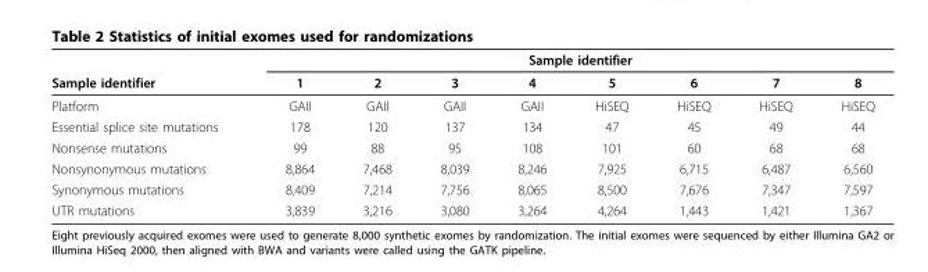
<table><thead><tr><td rowspan="2">Sample identifier</td><td colspan="8">Sample identifier</td></tr><tr><td>1</td><td>2</td><td>3</td><td>4</td><td>5</td><td>6</td><td>7</td><td>8</td></tr></thead><tbody><tr><td>Platform</td><td>GAII</td><td>GAII</td><td>GAII</td><td>GAII</td><td>HiSEQ</td><td>HiSEQ</td><td>HiSEQ</td><td>HiSEQ</td></tr><tr><td>Essential splice site mutations</td><td>178</td><td>120</td><td>137</td><td>134</td><td>47</td><td>45</td><td>49</td><td>44</td></tr><tr><td>Nonsense mutations</td><td>99</td><td>88</td><td>95</td><td>108</td><td>101</td><td>60</td><td>68</td><td>68</td></tr><tr><td>Nonsynonymous mutations</td><td>8,864</td><td>7,468</td><td>8,039</td><td>8,246</td><td>7,925</td><td>6,715</td><td>6,487</td><td>6,560</td></tr><tr><td>Synonymous mutations</td><td>8,409</td><td>7,214</td><td>7,756</td><td>8,065</td><td>8,500</td><td>7,676</td><td>7,347</td><td>7,597</td></tr><tr><td>UTR mutations</td><td>3,839</td><td>3,216</td><td>3,080</td><td>3,264</td><td>4,264</td><td>1,443</td><td>1,421</td><td>1,367</td></tr></tbody></table>